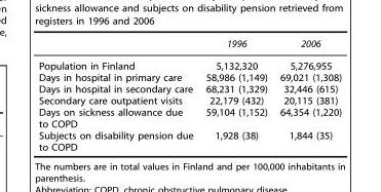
<table><thead><tr><td></td><td>1996</td><td>2006</td></tr></thead><tbody><tr><td>Population in Finland</td><td>5,132,320</td><td>5,276,955</td></tr><tr><td>Days in hospital in primary care</td><td>58,986 (1,149)</td><td>69,021 (1,308)</td></tr><tr><td>Days in hospital in secondary care</td><td>68,231 (1,329)</td><td>32,446 (615)</td></tr><tr><td>Secondary care outpatient visits</td><td>22,179 (432)</td><td>20,115 (381)</td></tr><tr><td>Days on sickness allowance due to COPD</td><td>59,104 (1,152)</td><td>64,354 (1,220)</td></tr><tr><td>Subjects on disability pension due to COPD</td><td>1,928 (38)</td><td>1,844 (35)</td></tr></tbody></table>